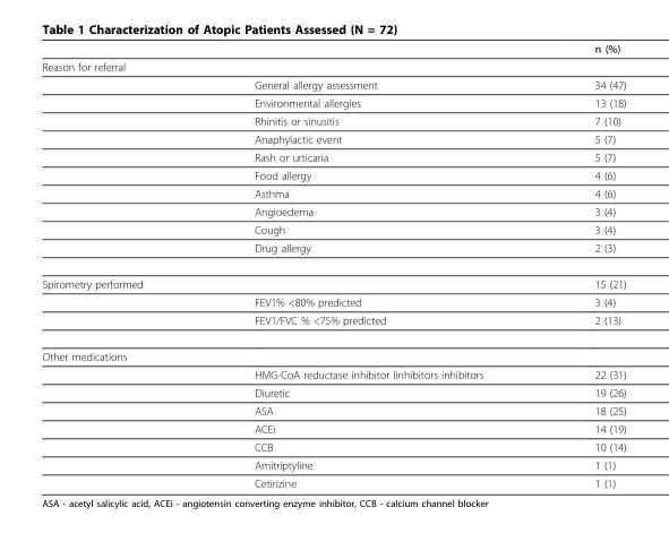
<table><thead><tr><td></td><td></td><td>n (%)</td></tr></thead><tbody><tr><td colspan="3">Reason for referral</td></tr><tr><td></td><td>General allergy assessment</td><td>34 (47)</td></tr><tr><td></td><td>Environmental allergies</td><td>13 (18)</td></tr><tr><td></td><td>Rhinitis or sinusitis</td><td>7 (10)</td></tr><tr><td></td><td>Anaphylactic event</td><td>5 (7)</td></tr><tr><td></td><td>Rash or urticaria</td><td>5 (7)</td></tr><tr><td></td><td>Food allergy</td><td>4 (6)</td></tr><tr><td></td><td>Asthma</td><td>4 (6)</td></tr><tr><td></td><td>Angioedema</td><td>3 (4)</td></tr><tr><td></td><td>Cough</td><td>3 (4)</td></tr><tr><td></td><td>Drug allergy</td><td>2 (3)</td></tr><tr><td rowspan="3">Spirometry performed</td><td></td><td>15 (21)</td></tr><tr><td>FEV1% &lt;80% predicted</td><td>3 (4)</td></tr><tr><td>FEV1/FVC % &lt;75% predicted</td><td>2 (13)</td></tr><tr><td colspan="3">Other medications</td></tr><tr><td></td><td>HMG-CoA reductase inhibitor Iinhibitors inhibitors</td><td>22 (31)</td></tr><tr><td></td><td>Diuretic</td><td>19 (26)</td></tr><tr><td></td><td>ASA</td><td>18 (25)</td></tr><tr><td></td><td>ACEi</td><td>14 (19)</td></tr><tr><td></td><td>CCB</td><td>10 (14)</td></tr><tr><td></td><td>Amitriptyline</td><td>1 (1)</td></tr><tr><td></td><td>Cetirizine</td><td>1 (1)</td></tr></tbody></table>